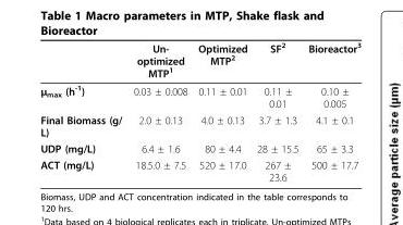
<table><thead><tr><td></td><td>Un- optimized MTP<sup>1</sup></td><td>Optimized MTP<sup>2</sup></td><td>SF<sup>2</sup></td><td>Bioreactor<sup>3</sup></td></tr></thead><tbody><tr><td>μ<sub>max</sub> (h<sup>-1</sup>)</td><td>0.03 ± 0.008</td><td>0.11 ± 0.01</td><td>0.11 ± 0.01</td><td>0.10 ± 0.005</td></tr><tr><td>Final Biomass (g/ L)</td><td>2.0 ± 0.13</td><td>4.0 ± 0.13</td><td>3.7 ± 1.3</td><td>4.1 ± 0.1</td></tr><tr><td>UDP (mg/L)</td><td>6.4 ± 1.6</td><td>80 ± 4.4</td><td>28 ± 15.5</td><td>65 ± 3.3</td></tr><tr><td>ACT (mg/L)</td><td>18.5.0 ± 7.5</td><td>520 ± 17.0</td><td>267 ± 23.6</td><td>500 ± 17.7</td></tr></tbody></table>